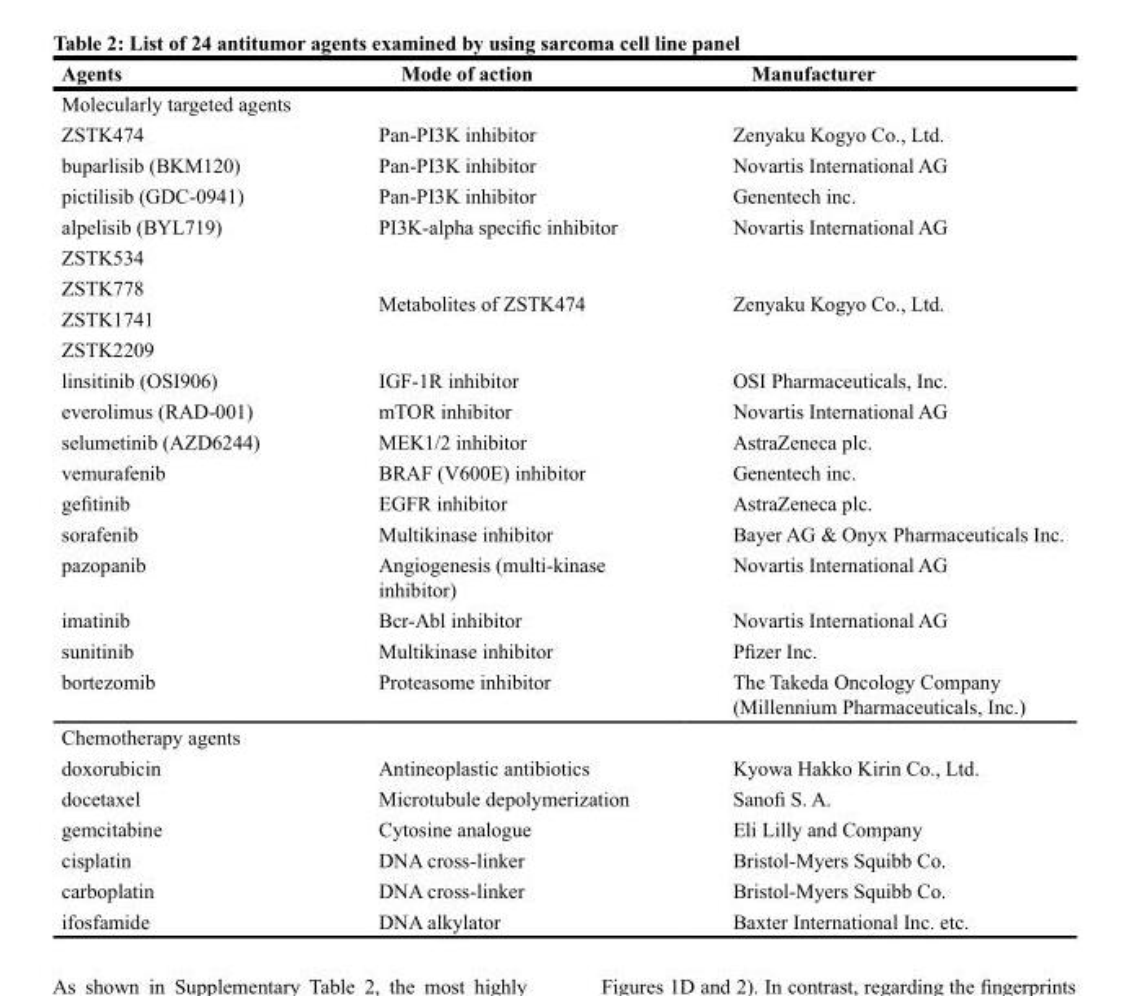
<table><thead><tr><td>Agents</td><td>Mode of action</td><td>Manufacturer</td></tr></thead><tbody><tr><td colspan="3">Molecularly targeted agents</td></tr><tr><td>ZSTK474</td><td>Pan-PI3K inhibitor</td><td>Zenyaku Kogyo Co., Ltd.</td></tr><tr><td>buparlisib (BKM120)</td><td>Pan-PI3K inhibitor</td><td>Novartis International AG</td></tr><tr><td>pictilisib (GDC-0941)</td><td>Pan-PI3K inhibitor</td><td>Genentech inc.</td></tr><tr><td>alpelisib (BYL719)</td><td>PI3K-alpha specific inhibitor</td><td>Novartis International AG</td></tr><tr><td>ZSTK534</td><td rowspan="4">Metabolites of ZSTK474</td><td rowspan="4">Zenyaku Kogyo Co., Ltd.</td></tr><tr><td>ZSTK778</td></tr><tr><td>ZSTK1741</td></tr><tr><td>ZSTK2209</td></tr><tr><td>linsitinib (OSI906)</td><td>IGF-1R inhibitor</td><td>OSI Pharmaceuticals, Inc.</td></tr><tr><td>everolimus (RAD-001)</td><td>mTOR inhibitor</td><td>Novartis International AG</td></tr><tr><td>selumetinib (AZD6244)</td><td>MEK1/2 inhibitor</td><td>AstraZeneca plc.</td></tr><tr><td>vemurafenib</td><td>BRAF (V600E) inhibitor</td><td>Genentech inc.</td></tr><tr><td>gefitinib</td><td>EGFR inhibitor</td><td>AstraZeneca plc.</td></tr><tr><td>sorafenib</td><td>Multikinase inhibitor</td><td>Bayer AG &amp; Onyx Pharmaceuticals Inc.</td></tr><tr><td>pazopanib</td><td>Angiogenesis (multi-kinase inhibitor)</td><td>Novartis International AG</td></tr><tr><td>imatinib</td><td>Bcr-Abl inhibitor</td><td>Novartis International AG</td></tr><tr><td>sunitinib</td><td>Multikinase inhibitor</td><td>Pfizer Inc.</td></tr><tr><td>bortezomib</td><td>Proteasome inhibitor</td><td>The Takeda Oncology Company (Millennium Pharmaceuticals, Inc.)</td></tr><tr><td colspan="3">Chemotherapy agents</td></tr><tr><td>doxorubicin</td><td>Antineoplastic antibiotics</td><td>Kyowa Hakko Kirin Co., Ltd.</td></tr><tr><td>docetaxel</td><td>Microtubule depolymerization</td><td>Sanofi S. A.</td></tr><tr><td>gemcitabine</td><td>Cytosine analogue</td><td>Eli Lilly and Company</td></tr><tr><td>cisplatin</td><td>DNA cross-linker</td><td>Bristol-Myers Squibb Co.</td></tr><tr><td>carboplatin</td><td>DNA cross-linker</td><td>Bristol-Myers Squibb Co.</td></tr><tr><td>ifosfamide</td><td>DNA alkylator</td><td>Baxter International Inc. etc.</td></tr></tbody></table>